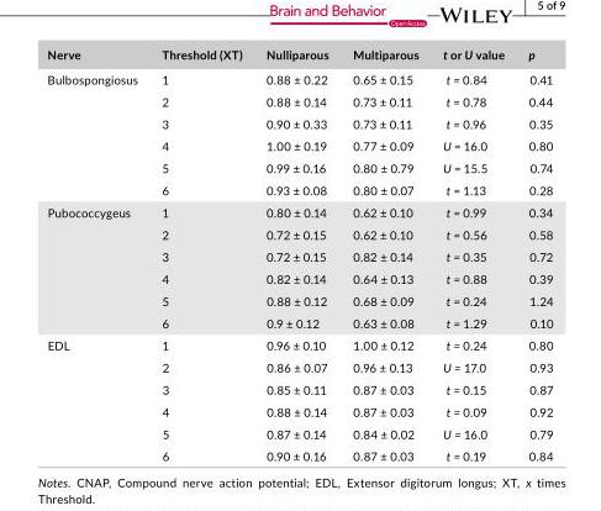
<table><thead><tr><td>Nerve</td><td>Threshold (XT)</td><td>Nulliparous</td><td>Multiparous</td><td>t or U value</td><td>p</td></tr></thead><tbody><tr><td rowspan="6">Bulbospongiosus</td><td>1</td><td>0.88 ± 0.22</td><td>0.65 ± 0.15</td><td>t = 0.84</td><td>0.41</td></tr><tr><td>2</td><td>0.88 ± 0.14</td><td>0.73 ± 0.11</td><td>t = 0.78</td><td>0.44</td></tr><tr><td>3</td><td>0.90 ± 0.33</td><td>0.73 ± 0.11</td><td>t = 0.96</td><td>0.35</td></tr><tr><td>4</td><td>1.00 ± 0.19</td><td>0.77 ± 0.09</td><td>U = 16.0</td><td>0.80</td></tr><tr><td>5</td><td>0.99 ± 0.16</td><td>0.80 ± 0.79</td><td>U = 15.5</td><td>0.74</td></tr><tr><td>6</td><td>0.93 ± 0.08</td><td>0.80 ± 0.07</td><td>t = 1.13</td><td>0.28</td></tr><tr><td rowspan="6">Pubococcygeus</td><td>1</td><td>0.80 ± 0.14</td><td>0.62 ± 0.10</td><td>t = 0.99</td><td>0.34</td></tr><tr><td>2</td><td>0.72 ± 0.15</td><td>0.62 ± 0.10</td><td>t = 0.56</td><td>0.58</td></tr><tr><td>3</td><td>0.72 ± 0.15</td><td>0.82 ± 0.14</td><td>t = 0.35</td><td>0.72</td></tr><tr><td>4</td><td>0.82 ± 0.14</td><td>0.64 ± 0.13</td><td>t = 0.88</td><td>0.39</td></tr><tr><td>5</td><td>0.88 ± 0.12</td><td>0.68 ± 0.09</td><td>t = 0.24</td><td>1.24</td></tr><tr><td>6</td><td>0.9 ± 0.12</td><td>0.63 ± 0.08</td><td>t = 1.29</td><td>0.10</td></tr><tr><td rowspan="6">EDL</td><td>1</td><td>0.96 ± 0.10</td><td>1.00 ± 0.12</td><td>t = 0.24</td><td>0.80</td></tr><tr><td>2</td><td>0.86 ± 0.07</td><td>0.96 ± 0.13</td><td>U = 17.0</td><td>0.93</td></tr><tr><td>3</td><td>0.85 ± 0.11</td><td>0.87 ± 0.03</td><td>t = 0.15</td><td>0.87</td></tr><tr><td>4</td><td>0.88 ± 0.14</td><td>0.87 ± 0.03</td><td>t = 0.09</td><td>0.92</td></tr><tr><td>5</td><td>0.87 ± 0.14</td><td>0.84 ± 0.02</td><td>U = 16.0</td><td>0.79</td></tr><tr><td>6</td><td>0.90 ± 0.16</td><td>0.87 ± 0.03</td><td>t = 0.19</td><td>0.84</td></tr></tbody></table>